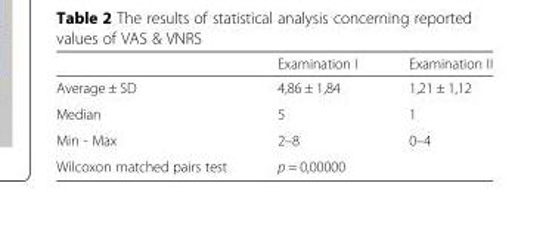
<table><thead><tr><td></td><td>Examination I</td><td>Examination II</td></tr></thead><tbody><tr><td>Average ± SD</td><td>4,86 ± 1,84</td><td>1,21 ± 1,12</td></tr><tr><td>Median</td><td>5</td><td>1</td></tr><tr><td>Min - Max</td><td>2–8</td><td>0–4</td></tr><tr><td>Wilcoxon matched pairs test</td><td colspan="2">p = 0,00000</td></tr></tbody></table>